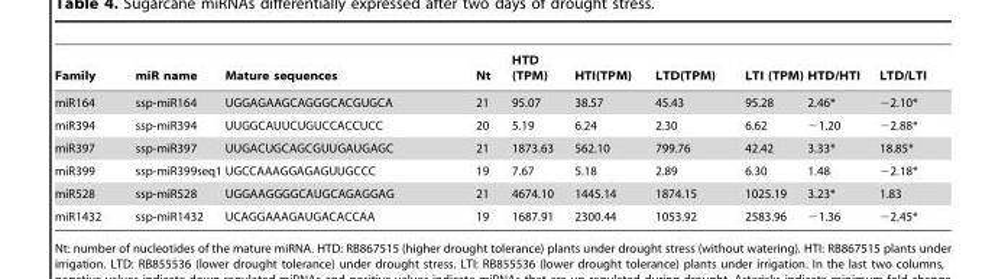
<table><thead><tr><td>Family</td><td>miR name</td><td>Mature sequences</td><td>Nt</td><td>HTD (TPM)</td><td>HTI(TPM)</td><td>LTD(TPM)</td><td>LTI (TPM)</td><td>HTD/HTI</td><td>LTD/LTI</td></tr></thead><tbody><tr><td>miR164</td><td>ssp-miR164</td><td>UGGAGAAGCAGGGCACGUGCA</td><td>21</td><td>95.07</td><td>38.57</td><td>45.43</td><td>95.28</td><td>2.46*</td><td>−2.10*</td></tr><tr><td>miR394</td><td>ssp-miR394</td><td>UUGGCAUUCUGUCCACCUCC</td><td>20</td><td>5.19</td><td>6.24</td><td>2.30</td><td>6.62</td><td>−1.20</td><td>−2.88*</td></tr><tr><td>miR397</td><td>ssp-miR397</td><td>UUGACUGCAGCGUUGAUGAGC</td><td>21</td><td>1873.63</td><td>562.10</td><td>799.76</td><td>42.42</td><td>3.33*</td><td>18.85*</td></tr><tr><td>miR399</td><td>ssp-miR399seq1</td><td>UGCCAAAGGAGAGUUGCCC</td><td>19</td><td>7.67</td><td>5.18</td><td>2.89</td><td>6.30</td><td>1.48</td><td>−2.18*</td></tr><tr><td>miR528</td><td>ssp-miR528</td><td>UGGAAGGGGCAUGCAGAGGAG</td><td>21</td><td>4674.10</td><td>1445.14</td><td>1874.15</td><td>1025.19</td><td>3.23*</td><td>1.83</td></tr><tr><td>miR1432</td><td>ssp-miR1432</td><td>UCAGGAAAGAUGACACCAA</td><td>19</td><td>1687.91</td><td>2300.44</td><td>1053.92</td><td>2583.96</td><td>−1.36</td><td>−2.45*</td></tr></tbody></table>